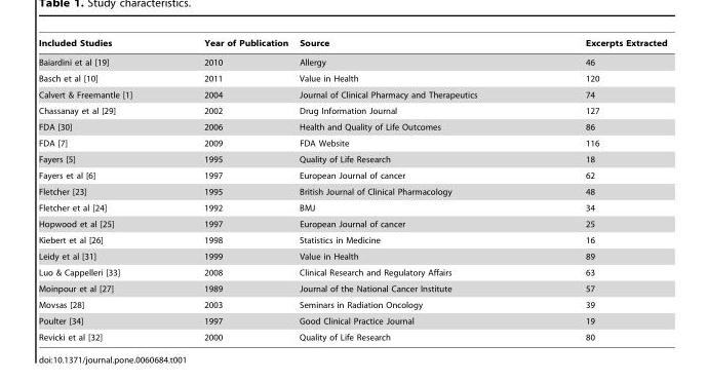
<table><thead><tr><td>Included Studies</td><td>Year of Publication</td><td>Source</td><td>Excerpts Extracted</td></tr></thead><tbody><tr><td>Baiardini et al [19]</td><td>2010</td><td>Allergy</td><td>46</td></tr><tr><td>Basch et al [10]</td><td>2011</td><td>Value in Health</td><td>120</td></tr><tr><td>Calvert &amp; Freemantle [1]</td><td>2004</td><td>Journal of Clinical Pharmacy and Therapeutics</td><td>74</td></tr><tr><td>Chassanay et al [29]</td><td>2002</td><td>Drug Information Journal</td><td>127</td></tr><tr><td>FDA [30]</td><td>2006</td><td>Health and Quality of Life Outcomes</td><td>86</td></tr><tr><td>FDA [7]</td><td>2009</td><td>FDA Website</td><td>116</td></tr><tr><td>Fayers [5]</td><td>1995</td><td>Quality of Life Research</td><td>18</td></tr><tr><td>Fayers et al [6]</td><td>1997</td><td>European Journal of cancer</td><td>62</td></tr><tr><td>Fletcher [23]</td><td>1995</td><td>British Journal of Clinical Pharmacology</td><td>48</td></tr><tr><td>Fletcher et al [24]</td><td>1992</td><td>BMJ</td><td>34</td></tr><tr><td>Hopwood et al [25]</td><td>1997</td><td>European Journal of cancer</td><td>25</td></tr><tr><td>Kiebert et al [26]</td><td>1998</td><td>Statistics in Medicine</td><td>16</td></tr><tr><td>Leidy et al [31]</td><td>1999</td><td>Value in Health</td><td>89</td></tr><tr><td>Luo &amp; Cappelleri [33]</td><td>2008</td><td>Clinical Research and Regulatory Affairs</td><td>63</td></tr><tr><td>Moinpour et al [27]</td><td>1989</td><td>Journal of the National Cancer Institute</td><td>57</td></tr><tr><td>Movsas [28]</td><td>2003</td><td>Seminars in Radiation Oncology</td><td>39</td></tr><tr><td>Poulter [34]</td><td>1997</td><td>Good Clinical Practice Journal</td><td>19</td></tr><tr><td>Revicki et al [32]</td><td>2000</td><td>Quality of Life Research</td><td>80</td></tr></tbody></table>